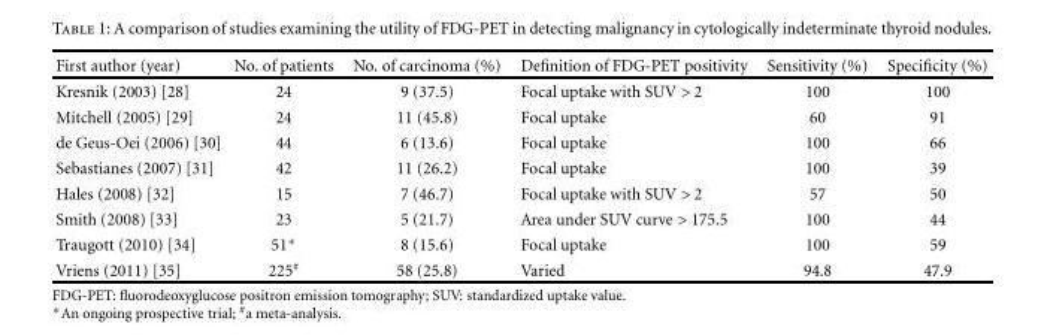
<table><thead><tr><td>First author (year)</td><td>No. of patients</td><td>No. of carcinoma (%)</td><td>Definition of FDG-PET positivity</td><td>Sensitivity (%)</td><td>Specificity (%)</td></tr></thead><tbody><tr><td>Kresnik (2003) [28]</td><td>24</td><td>9 (37.5)</td><td>Focal uptake with SUV &gt; 2</td><td>100</td><td>100</td></tr><tr><td>Mitchell (2005) [29]</td><td>24</td><td>11 (45.8)</td><td>Focal uptake</td><td>60</td><td>91</td></tr><tr><td>de Geus-Oei (2006) [30]</td><td>44</td><td>6 (13.6)</td><td>Focal uptake</td><td>100</td><td>66</td></tr><tr><td>Sebastianes (2007) [31]</td><td>42</td><td>11 (26.2)</td><td>Focal uptake</td><td>100</td><td>39</td></tr><tr><td>Hales (2008) [32]</td><td>15</td><td>7 (46.7)</td><td>Focal uptake with SUV &gt; 2</td><td>57</td><td>50</td></tr><tr><td>Smith (2008) [33]</td><td>23</td><td>5 (21.7)</td><td>Area under SUV curve &gt; 175.5</td><td>100</td><td>44</td></tr><tr><td>Traugott (2010) [34]</td><td>51∗</td><td>8 (15.6)</td><td>Focal uptake</td><td>100</td><td>59</td></tr><tr><td>Vriens (2011) [35]</td><td>225<sup>#</sup></td><td>58 (25.8)</td><td>Varied</td><td>94.8</td><td>47.9</td></tr></tbody></table>